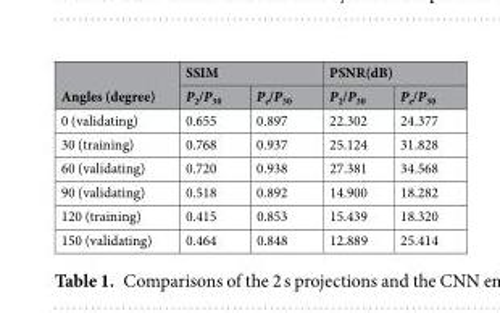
<table><thead><tr><td rowspan="2">Angles (degree)</td><td colspan="2">SSIM</td><td colspan="2">PSNR(dB)</td></tr><tr><td>P<sub>2</sub>/P<sub>30</sub></td><td>P<sub>e</sub>/P<sub>30</sub></td><td>P<sub>2</sub>/P<sub>30</sub></td><td>P<sub>e</sub>/P<sub>30</sub></td></tr></thead><tbody><tr><td>0 (validating)</td><td>0.655</td><td>0.897</td><td>22.302</td><td>24.377</td></tr><tr><td>30 (training)</td><td>0.768</td><td>0.937</td><td>25.124</td><td>31.828</td></tr><tr><td>60 (validating)</td><td>0.720</td><td>0.938</td><td>27.381</td><td>34.568</td></tr><tr><td>90 (validating)</td><td>0.518</td><td>0.892</td><td>14.900</td><td>18.282</td></tr><tr><td>120 (training)</td><td>0.415</td><td>0.853</td><td>15.439</td><td>18.320</td></tr><tr><td>150 (validating)</td><td>0.464</td><td>0.848</td><td>12.889</td><td>25.414</td></tr></tbody></table>